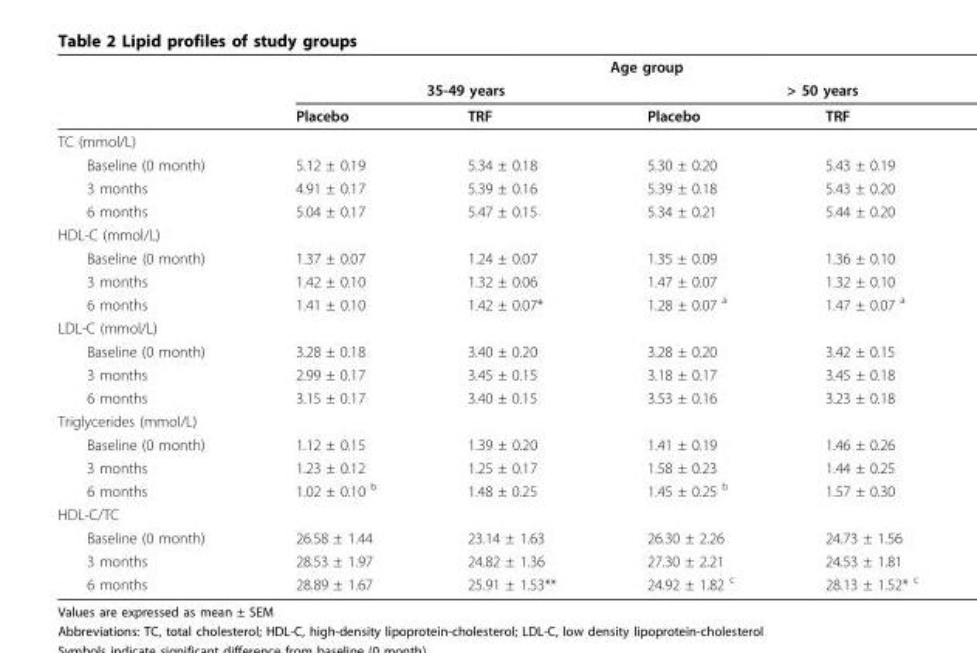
<table><thead><tr><td rowspan="3"></td><td colspan="4">Age group</td></tr><tr><td colspan="2">35-49 years</td><td colspan="2">&gt; 50 years</td></tr><tr><td>Placebo</td><td>TRF</td><td>Placebo</td><td>TRF</td></tr></thead><tbody><tr><td colspan="5">TC (mmol/L)</td></tr><tr><td>Baseline (0 month)</td><td>5.12 ± 0.19</td><td>5.34 ± 0.18</td><td>5.30 ± 0.20</td><td>5.43 ± 0.19</td></tr><tr><td>3 months</td><td>4.91 ± 0.17</td><td>5.39 ± 0.16</td><td>5.39 ± 0.18</td><td>5.43 ± 0.20</td></tr><tr><td>6 months</td><td>5.04 ± 0.17</td><td>5.47 ± 0.15</td><td>5.34 ± 0.21</td><td>5.44 ± 0.20</td></tr><tr><td colspan="5">HDL-C (mmol/L)</td></tr><tr><td>Baseline (0 month)</td><td>1.37 ± 0.07</td><td>1.24 ± 0.07</td><td>1.35 ± 0.09</td><td>1.36 ± 0.10</td></tr><tr><td>3 months</td><td>1.42 ± 0.10</td><td>1.32 ± 0.06</td><td>1.47 ± 0.07</td><td>1.32 ± 0.10</td></tr><tr><td>6 months</td><td>1.41 ± 0.10</td><td>1.42 ± 0.07*</td><td>1.28 ± 0.07 <sup>a</sup></td><td>1.47 ± 0.07 <sup>a</sup></td></tr><tr><td colspan="5">LDL-C (mmol/L)</td></tr><tr><td>Baseline (0 month)</td><td>3.28 ± 0.18</td><td>3.40 ± 0.20</td><td>3.28 ± 0.20</td><td>3.42 ± 0.15</td></tr><tr><td>3 months</td><td>2.99 ± 0.17</td><td>3.45 ± 0.15</td><td>3.18 ± 0.17</td><td>3.45 ± 0.18</td></tr><tr><td>6 months</td><td>3.15 ± 0.17</td><td>3.40 ± 0.15</td><td>3.53 ± 0.16</td><td>3.23 ± 0.18</td></tr><tr><td colspan="5">Triglycerides (mmol/L)</td></tr><tr><td>Baseline (0 month)</td><td>1.12 ± 0.15</td><td>1.39 ± 0.20</td><td>1.41 ± 0.19</td><td>1.46 ± 0.26</td></tr><tr><td>3 months</td><td>1.23 ± 0.12</td><td>1.25 ± 0.17</td><td>1.58 ± 0.23</td><td>1.44 ± 0.25</td></tr><tr><td>6 months</td><td>1.02 ± 0.10 <sup>b</sup></td><td>1.48 ± 0.25</td><td>1.45 ± 0.25 <sup>b</sup></td><td>1.57 ± 0.30</td></tr><tr><td colspan="5">HDL-C/TC</td></tr><tr><td>Baseline (0 month)</td><td>26.58 ± 1.44</td><td>23.14 ± 1.63</td><td>26.30 ± 2.26</td><td>24.73 ± 1.56</td></tr><tr><td>3 months</td><td>28.53 ± 1.97</td><td>24.82 ± 1.36</td><td>27.30 ± 2.21</td><td>24.53 ± 1.81</td></tr><tr><td>6 months</td><td>28.89 ± 1.67</td><td>25.91 ± 1.53**</td><td>24.92 ± 1.82 <sup>c</sup></td><td>28.13 ± 1.52* <sup>c</sup></td></tr></tbody></table>